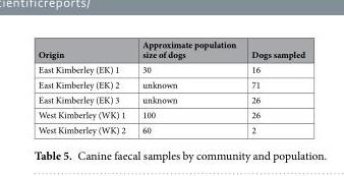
<table><thead><tr><td>Origin</td><td>Approximate population size of dogs</td><td>Dogs sampled</td></tr></thead><tbody><tr><td>East Kimberley (EK) 1</td><td>30</td><td>16</td></tr><tr><td>East Kimberley (EK) 2</td><td>unknown</td><td>71</td></tr><tr><td>East Kimberley (EK) 3</td><td>unknown</td><td>26</td></tr><tr><td>West Kimberley (WK) 1</td><td>100</td><td>26</td></tr><tr><td>West Kimberley (WK) 2</td><td>60</td><td>2</td></tr></tbody></table>